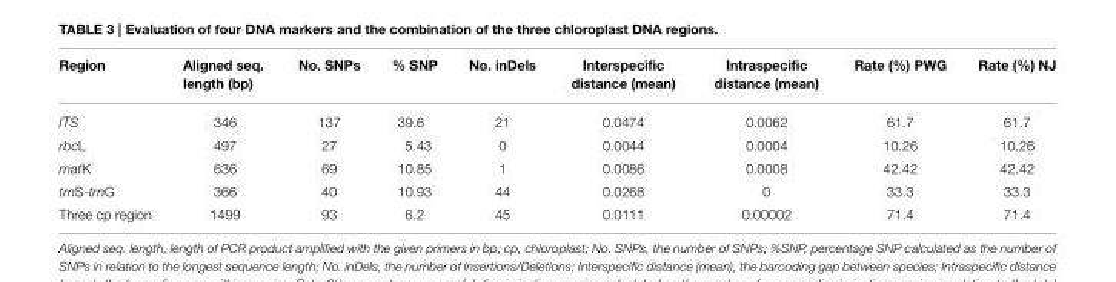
<table><thead><tr><td>Region</td><td>Aligned seq. length (bp)</td><td>No. SNPs</td><td>% SNP</td><td>No. inDels</td><td>Interspecific distance (mean)</td><td>Intraspecific distance (mean)</td><td>Rate (%) PWG</td><td>Rate (%) NJ</td></tr></thead><tbody><tr><td>ITS</td><td>346</td><td>137</td><td>39.6</td><td>21</td><td>0.0474</td><td>0.0062</td><td>61.7</td><td>61.7</td></tr><tr><td>rbcL</td><td>497</td><td>27</td><td>5.43</td><td>0</td><td>0.0044</td><td>0.0004</td><td>10.26</td><td>10.26</td></tr><tr><td>matK</td><td>636</td><td>69</td><td>10.85</td><td>1</td><td>0.0086</td><td>0.0008</td><td>42.42</td><td>42.42</td></tr><tr><td>trnS-trnG</td><td>366</td><td>40</td><td>10.93</td><td>44</td><td>0.0268</td><td>0</td><td>33.3</td><td>33.3</td></tr><tr><td>Three cp region</td><td>1499</td><td>93</td><td>6.2</td><td>45</td><td>0.0111</td><td>0.00002</td><td>71.4</td><td>71.4</td></tr></tbody></table>